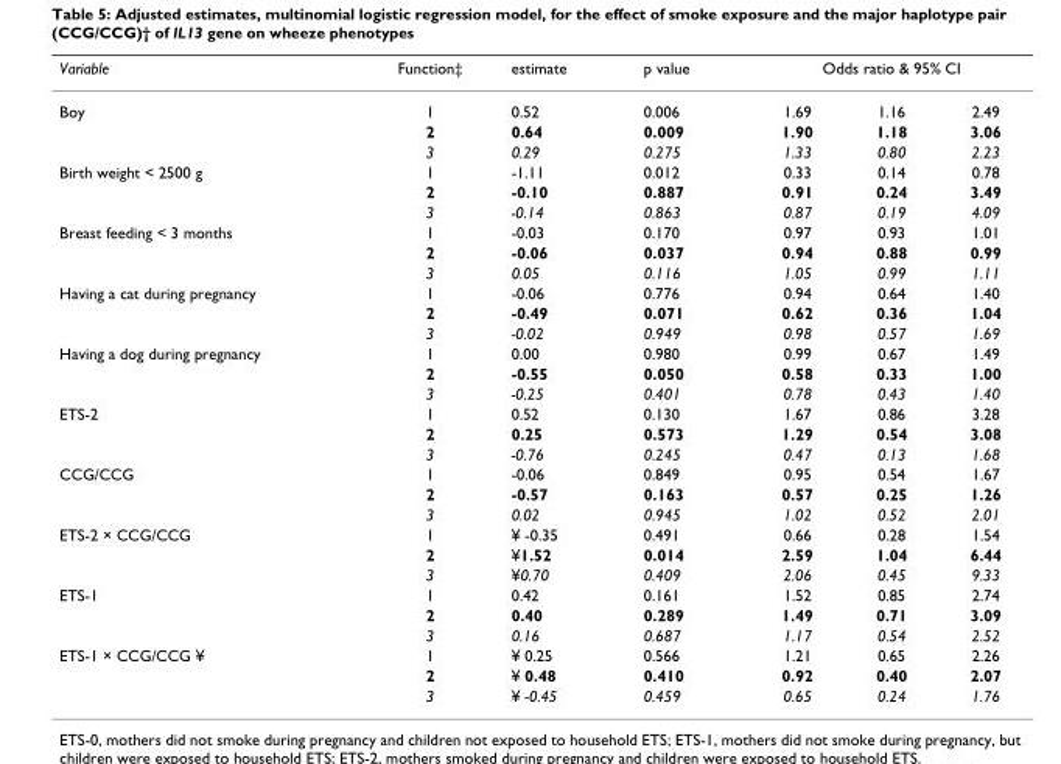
<table><thead><tr><td rowspan="2">Variable Boy</td><td rowspan="2">Function‡ 1</td><td rowspan="2">estimate 0.52</td><td rowspan="2">p value 0.006</td><td colspan="3">Odds ratio &amp; 95% CI</td></tr><tr><td>1.69</td><td>1.16</td><td>2.49</td></tr></thead><tbody><tr><td></td><td>2</td><td>0.64</td><td>0.009</td><td>1.90</td><td>1.18</td><td>3.06</td></tr><tr><td></td><td>3</td><td>0.29</td><td>0.275</td><td>1.33</td><td>0.80</td><td>2.23</td></tr><tr><td rowspan="3">Birth weight &lt; 2500 g</td><td>1</td><td>-1.11</td><td>0.012</td><td>0.33</td><td>0.14</td><td>0.78</td></tr><tr><td>2</td><td>-0.10</td><td>0.887</td><td>0.91</td><td>0.24</td><td>3.49</td></tr><tr><td>3</td><td>-0.14</td><td>0.863</td><td>0.87</td><td>0.19</td><td>4.09</td></tr><tr><td rowspan="3">Breast feeding &lt; 3 months</td><td>1</td><td>-0.03</td><td>0.170</td><td>0.97</td><td>0.93</td><td>1.01</td></tr><tr><td>2</td><td>-0.06</td><td>0.037</td><td>0.94</td><td>0.88</td><td>0.99</td></tr><tr><td>3</td><td>0.05</td><td>0.116</td><td>1.05</td><td>0.99</td><td>1.11</td></tr><tr><td rowspan="3">Having a cat during pregnancy</td><td>1</td><td>-0.06</td><td>0.776</td><td>0.94</td><td>0.64</td><td>1.40</td></tr><tr><td>2</td><td>-0.49</td><td>0.071</td><td>0.62</td><td>0.36</td><td>1.04</td></tr><tr><td>3</td><td>-0.02</td><td>0.949</td><td>0.98</td><td>0.57</td><td>1.69</td></tr><tr><td rowspan="3">Having a dog during pregnancy</td><td>1</td><td>0.00</td><td>0.980</td><td>0.99</td><td>0.67</td><td>1.49</td></tr><tr><td>2</td><td>-0.55</td><td>0.050</td><td>0.58</td><td>0.33</td><td>1.00</td></tr><tr><td>3</td><td>-0.25</td><td>0.401</td><td>0.78</td><td>0.43</td><td>1.40</td></tr><tr><td rowspan="3">ETS-2</td><td>1</td><td>0.52</td><td>0.130</td><td>1.67</td><td>0.86</td><td>3.28</td></tr><tr><td>2</td><td>0.25</td><td>0.573</td><td>1.29</td><td>0.54</td><td>3.08</td></tr><tr><td>3</td><td>-0.76</td><td>0.245</td><td>0.47</td><td>0.13</td><td>1.68</td></tr><tr><td rowspan="3">CCG/CCG</td><td>1</td><td>-0.06</td><td>0.849</td><td>0.95</td><td>0.54</td><td>1.67</td></tr><tr><td>2</td><td>-0.57</td><td>0.163</td><td>0.57</td><td>0.25</td><td>1.26</td></tr><tr><td>3</td><td>0.02</td><td>0.945</td><td>1.02</td><td>0.52</td><td>2.01</td></tr><tr><td rowspan="3">ETS-2 × CCG/CCG</td><td>1</td><td>¥ -0.35</td><td>0.491</td><td>0.66</td><td>0.28</td><td>1.54</td></tr><tr><td>2</td><td>¥1.52</td><td>0.014</td><td>2.59</td><td>1.04</td><td>6.44</td></tr><tr><td>3</td><td>¥0.70</td><td>0.409</td><td>2.06</td><td>0.45</td><td>9.33</td></tr><tr><td rowspan="3">ETS-1</td><td>1</td><td>0.42</td><td>0.161</td><td>1.52</td><td>0.85</td><td>2.74</td></tr><tr><td>2</td><td>0.40</td><td>0.289</td><td>1.49</td><td>0.71</td><td>3.09</td></tr><tr><td>3</td><td>0.16</td><td>0.687</td><td>1.17</td><td>0.54</td><td>2.52</td></tr><tr><td rowspan="3">ETS-1 × CCG/CCG ¥</td><td>1</td><td>¥ 0.25</td><td>0.566</td><td>1.21</td><td>0.65</td><td>2.26</td></tr><tr><td>2</td><td>¥ 0.48</td><td>0.410</td><td>0.92</td><td>0.40</td><td>2.07</td></tr><tr><td>3</td><td>¥ -0.45</td><td>0.459</td><td>0.65</td><td>0.24</td><td>1.76</td></tr></tbody></table>